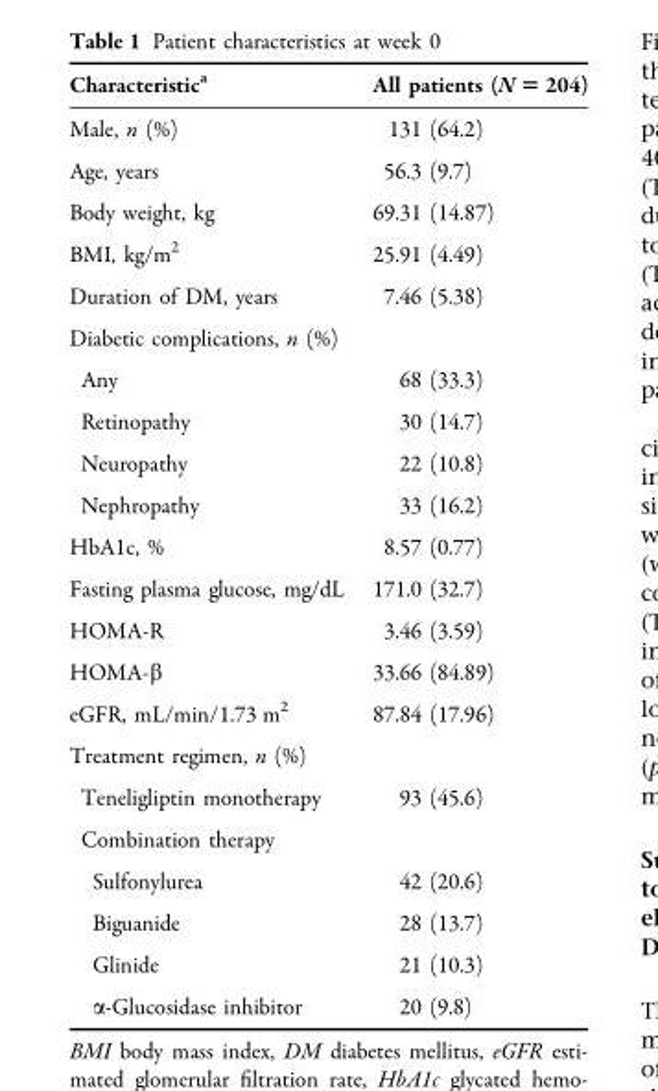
<table><thead><tr><td>Characteristic<sup>a</sup></td><td>All patients (N = 204)</td></tr></thead><tbody><tr><td>Male, n (%)</td><td>131 (64.2)</td></tr><tr><td>Age, years</td><td>56.3 (9.7)</td></tr><tr><td>Body weight, kg</td><td>69.31 (14.87)</td></tr><tr><td>BMI, kg/m<sup>2</sup></td><td>25.91 (4.49)</td></tr><tr><td>Duration of DM, years</td><td>7.46 (5.38)</td></tr><tr><td colspan="2">Diabetic complications, n (%)</td></tr><tr><td>Any</td><td>68 (33.3)</td></tr><tr><td>Retinopathy</td><td>30 (14.7)</td></tr><tr><td>Neuropathy</td><td>22 (10.8)</td></tr><tr><td>Nephropathy</td><td>33 (16.2)</td></tr><tr><td>HbA1c, %</td><td>8.57 (0.77)</td></tr><tr><td>Fasting plasma glucose, mg/dL</td><td>171.0 (32.7)</td></tr><tr><td>HOMA-R</td><td>3.46 (3.59)</td></tr><tr><td>HOMA-β</td><td>33.66 (84.89)</td></tr><tr><td>eGFR, mL/min/1.73 m<sup>2</sup></td><td>87.84 (17.96)</td></tr><tr><td colspan="2">Treatment regimen, n (%)</td></tr><tr><td>Teneligliptin monotherapy</td><td>93 (45.6)</td></tr><tr><td colspan="2">Combination therapy</td></tr><tr><td>Sulfonylurea</td><td>42 (20.6)</td></tr><tr><td>Biguanide</td><td>28 (13.7)</td></tr><tr><td>Glinide</td><td>21 (10.3)</td></tr><tr><td>α-Glucosidase inhibitor</td><td>20 (9.8)</td></tr></tbody></table>